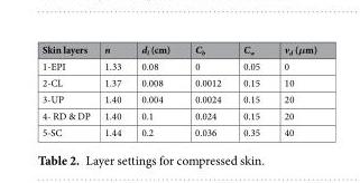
<table><thead><tr><td>Skin layers</td><td>n</td><td>d<sub>l</sub> (cm)</td><td>C<sub>b</sub></td><td>C<sub>w</sub></td><td>v<sub>d</sub> (μm)</td></tr></thead><tbody><tr><td>1-EPI</td><td>1.33</td><td>0.08</td><td>0</td><td>0.05</td><td>0</td></tr><tr><td>2-CL</td><td>1.37</td><td>0.008</td><td>0.0012</td><td>0.15</td><td>10</td></tr><tr><td>3-UP</td><td>1.40</td><td>0.004</td><td>0.0024</td><td>0.15</td><td>20</td></tr><tr><td>4- RD &amp; DP</td><td>1.40</td><td>0.1</td><td>0.024</td><td>0.15</td><td>20</td></tr><tr><td>5-SC</td><td>1.44</td><td>0.2</td><td>0.036</td><td>0.35</td><td>40</td></tr></tbody></table>